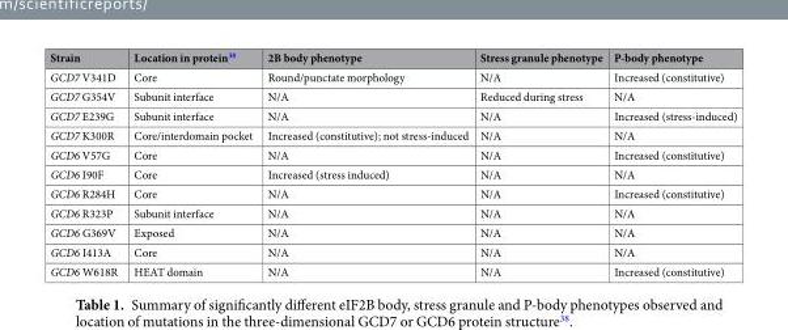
<table><thead><tr><td>Strain</td><td>Location in protein<sup>38</sup></td><td>2B body phenotype</td><td>Stress granule phenotype</td><td>P-body phenotype</td></tr></thead><tbody><tr><td>GCD7 V341D</td><td>Core</td><td>Round/punctate morphology</td><td>N/A</td><td>Increased (constitutive)</td></tr><tr><td>GCD7 G354V</td><td>Subunit interface</td><td>N/A</td><td>Reduced during stress</td><td>N/A</td></tr><tr><td>GCD7 E239G</td><td>Subunit interface</td><td>N/A</td><td>N/A</td><td>Increased (stress-induced)</td></tr><tr><td>GCD7 K300R</td><td>Core/interdomain pocket</td><td>Increased (constitutive); not stress-induced</td><td>N/A</td><td>N/A</td></tr><tr><td>GCD6 V57G</td><td>Core</td><td>N/A</td><td>N/A</td><td>Increased (constitutive)</td></tr><tr><td>GCD6 I90F</td><td>Core</td><td>Increased (stress induced)</td><td>N/A</td><td>N/A</td></tr><tr><td>GCD6 R284H</td><td>Core</td><td>N/A</td><td>N/A</td><td>Increased (constitutive)</td></tr><tr><td>GCD6 R323P</td><td>Subunit interface</td><td>N/A</td><td>N/A</td><td>N/A</td></tr><tr><td>GCD6 G369V</td><td>Exposed</td><td>N/A</td><td>N/A</td><td>N/A</td></tr><tr><td>GCD6 I413A</td><td>Core</td><td>N/A</td><td>N/A</td><td>N/A</td></tr><tr><td>GCD6 W618R</td><td>HEAT domain</td><td>N/A</td><td>N/A</td><td>Increased (constitutive)</td></tr></tbody></table>